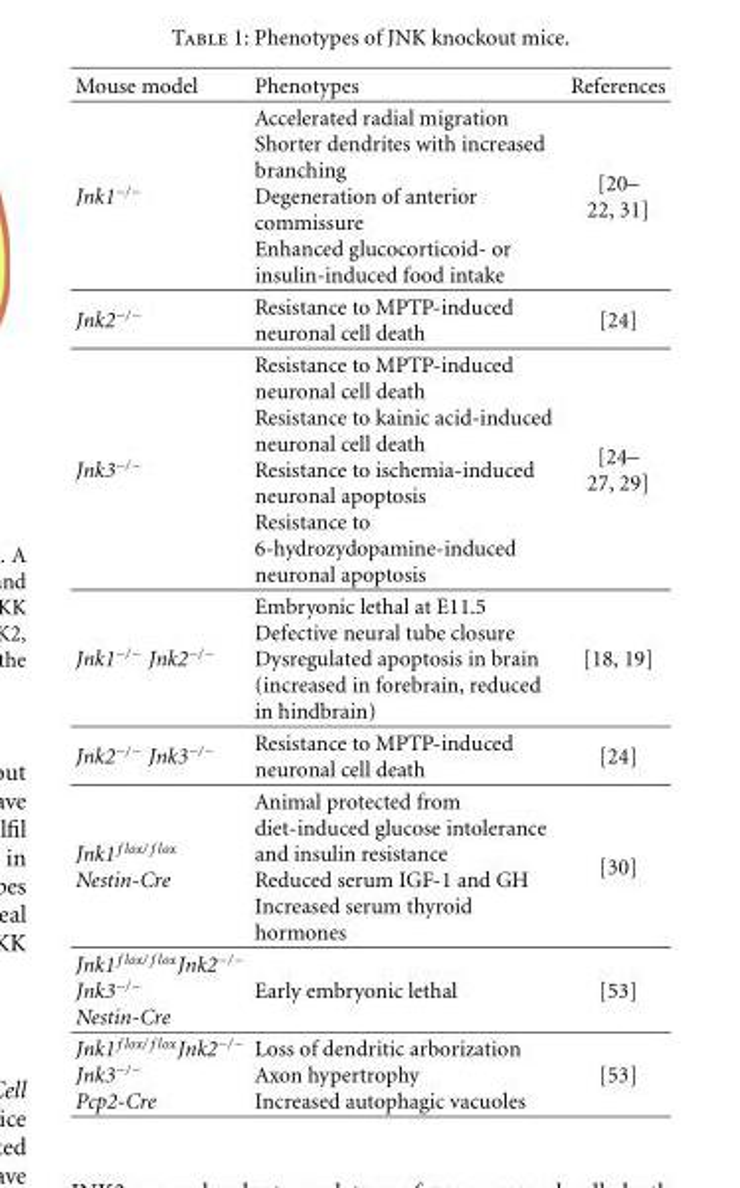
<table><thead><tr><td>Mouse model</td><td>Phenotypes</td><td>References</td></tr></thead><tbody><tr><td>Jnk1<sup>−/−</sup></td><td>Accelerated radial migration Shorter dendrites with increased branching Degeneration of anterior commissure Enhanced glucocorticoid- or insulin-induced food intake</td><td>[20– 22, 31]</td></tr><tr><td>Jnk2<sup>−/−</sup></td><td>Resistance to MPTP-induced neuronal cell death</td><td>[24]</td></tr><tr><td>Jnk3<sup>−/−</sup></td><td>Resistance to MPTP-induced neuronal cell death Resistance to kainic acid-induced neuronal cell death Resistance to ischemia-induced neuronal apoptosis Resistance to 6-hydrozydopamine-induced neuronal apoptosis</td><td>[24– 27, 29]</td></tr><tr><td>Jnk1<sup>−/−</sup> Jnk2<sup>−/−</sup></td><td>Embryonic lethal at E11.5 Defective neural tube closure Dysregulated apoptosis in brain (increased in forebrain, reduced in hindbrain)</td><td>[18, 19]</td></tr><tr><td>Jnk2<sup>−/−</sup> Jnk3<sup>−/−</sup></td><td>Resistance to MPTP-induced neuronal cell death</td><td>[24]</td></tr><tr><td>Jnk1 <sup>f lox/ f lox</sup> Nestin-Cre</td><td>Animal protected from diet-induced glucose intolerance and insulin resistance Reduced serum IGF-1 and GH Increased serum thyroid hormones</td><td>[30]</td></tr><tr><td>Jnk1 <sup>f lox/ f lox</sup>Jnk2<sup>−/−</sup> Jnk3<sup>−/−</sup> Nestin-Cre</td><td>Early embryonic lethal</td><td>[53]</td></tr><tr><td>Jnk1 <sup>f lox/ f lox</sup>Jnk2<sup>−/−</sup> Jnk3<sup>−/−</sup> Pcp2-Cre</td><td>Loss of dendritic arborization Axon hypertrophy Increased autophagic vacuoles</td><td>[53]</td></tr></tbody></table>